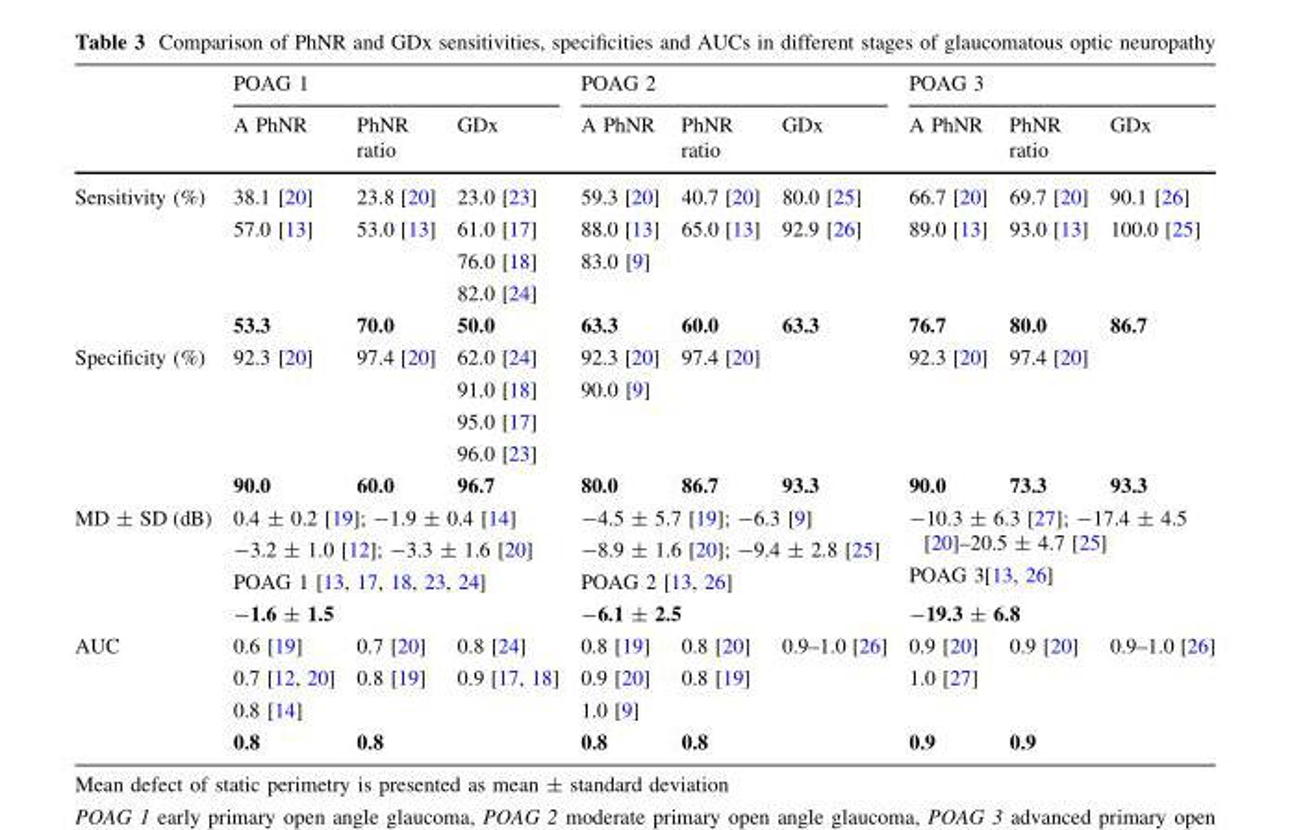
<table><thead><tr><td rowspan="2"></td><td colspan="3">POAG 1</td><td colspan="3">POAG 2</td><td colspan="3">POAG 3</td></tr><tr><td>A PhNR</td><td>PhNR ratio</td><td>GDx</td><td>A PhNR</td><td>PhNR ratio</td><td>GDx</td><td>A PhNR</td><td>PhNR ratio</td><td>GDx</td></tr></thead><tbody><tr><td rowspan="5">Sensitivity (%)</td><td>38.1 [20]</td><td>23.8 [20]</td><td>23.0 [23]</td><td>59.3 [20]</td><td>40.7 [20]</td><td>80.0 [25]</td><td>66.7 [20]</td><td>69.7 [20]</td><td>90.1 [26]</td></tr><tr><td>57.0 [13]</td><td>53.0 [13]</td><td>61.0 [17]</td><td>88.0 [13]</td><td>65.0 [13]</td><td>92.9 [26]</td><td>89.0 [13]</td><td>93.0 [13]</td><td>100.0 [25]</td></tr><tr><td></td><td></td><td>76.0 [18]</td><td>83.0 [9]</td><td></td><td></td><td></td><td></td><td></td></tr><tr><td></td><td></td><td>82.0 [24]</td><td></td><td></td><td></td><td></td><td></td><td></td></tr><tr><td>53.3</td><td>70.0</td><td>50.0</td><td>63.3</td><td>60.0</td><td>63.3</td><td>76.7</td><td>80.0</td><td>86.7</td></tr><tr><td rowspan="5">Specificity (%)</td><td>92.3 [20]</td><td>97.4 [20]</td><td>62.0 [24]</td><td>92.3 [20]</td><td>97.4 [20]</td><td></td><td>92.3 [20]</td><td>97.4 [20]</td><td></td></tr><tr><td></td><td></td><td>91.0 [18]</td><td>90.0 [9]</td><td></td><td></td><td></td><td></td><td></td></tr><tr><td></td><td></td><td>95.0 [17]</td><td></td><td></td><td></td><td></td><td></td><td></td></tr><tr><td></td><td></td><td>96.0 [23]</td><td></td><td></td><td></td><td></td><td></td><td></td></tr><tr><td>90.0</td><td>60.0</td><td>96.7</td><td>80.0</td><td>86.7</td><td>93.3</td><td>90.0</td><td>73.3</td><td>93.3</td></tr><tr><td rowspan="2">MD ± SD (dB)</td><td colspan="3">0.4 ± 0.2 [19]; -1.9 ± 0.4 [14] -3.2 ± 1.0 [12]; -3.3 ± 1.6 [20] POAG 1 [13, 17, 18, 23, 24]</td><td colspan="3">-4.5 ± 5.7 [19]; -6.3 [9] -8.9 ± 1.6 [20]; -9.4 ± 2.8 [25] POAG 2 [13, 26]</td><td colspan="3">-10.3 ± 6.3 [27]; -17.4 ± 4.5 [20]–20.5 ± 4.7 [25] POAG 3[13, 26]</td></tr><tr><td colspan="3">-1.6 ± 1.5</td><td colspan="3">-6.1 ± 2.5</td><td colspan="3">-19.3 ± 6.8</td></tr><tr><td rowspan="4">AUC</td><td>0.6 [19]</td><td>0.7 [20]</td><td>0.8 [24]</td><td>0.8 [19]</td><td>0.8 [20]</td><td>0.9–1.0 [26]</td><td>0.9 [20]</td><td>0.9 [20]</td><td>0.9–1.0 [26]</td></tr><tr><td>0.7 [12, 20]</td><td>0.8 [19]</td><td>0.9 [17, 18]</td><td>0.9 [20]</td><td>0.8 [19]</td><td></td><td>1.0 [27]</td><td></td><td></td></tr><tr><td>0.8 [14]</td><td></td><td></td><td>1.0 [9]</td><td></td><td></td><td></td><td></td><td></td></tr><tr><td>0.8</td><td>0.8</td><td></td><td>0.8</td><td>0.8</td><td></td><td>0.9</td><td>0.9</td><td></td></tr></tbody></table>